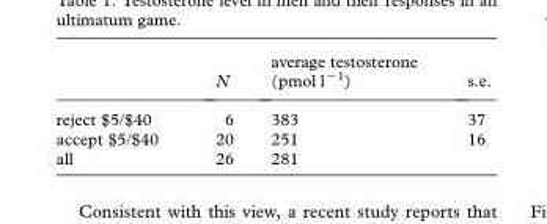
<table><thead><tr><td></td><td>N</td><td>average testosterone (pmol l<sup>−1</sup>)</td><td>s.e.</td></tr></thead><tbody><tr><td>reject $5/$40</td><td>6</td><td>383</td><td>37</td></tr><tr><td>accept $5/$40</td><td>20</td><td>251</td><td>16</td></tr><tr><td>all</td><td>26</td><td>281</td><td></td></tr></tbody></table>